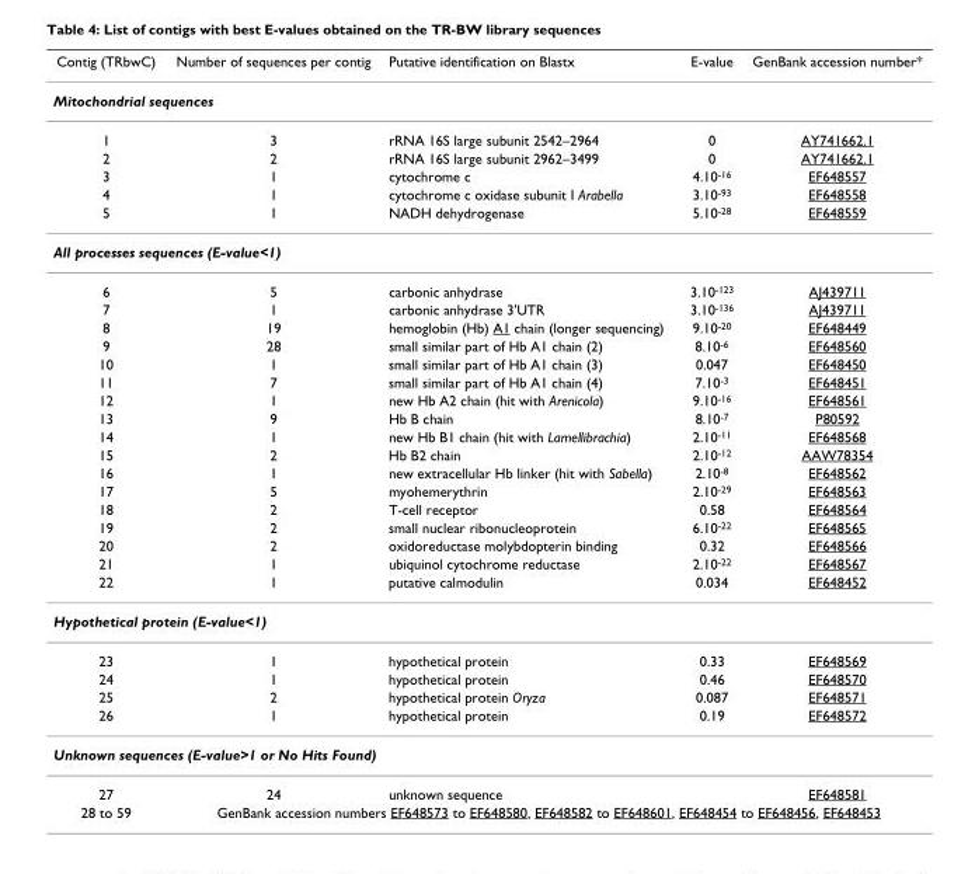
<table><thead><tr><td>Contig (TRbwC)</td><td>Number of sequences per contig</td><td>Putative identification on Blastx</td><td>E-value</td><td>GenBank accession number*</td></tr></thead><tbody><tr><td colspan="5">Mitochondrial sequences</td></tr><tr><td>1</td><td>3</td><td>rRNA 16S large subunit 2542–2964</td><td>0</td><td>AY741662.1</td></tr><tr><td>2</td><td>2</td><td>rRNA 16S large subunit 2962–3499</td><td>0</td><td>AY741662.1</td></tr><tr><td>3</td><td>1</td><td>cytochrome c</td><td>4.10<sup>-16</sup></td><td>EF648557</td></tr><tr><td>4</td><td>1</td><td>cytochrome c oxidase subunit I Arabella</td><td>3.10<sup>-93</sup></td><td>EF648558</td></tr><tr><td>5</td><td>1</td><td>NADH dehydrogenase</td><td>5.10<sup>-28</sup></td><td>EF648559</td></tr><tr><td colspan="5">All processes sequences (E-value&lt;1)</td></tr><tr><td>6</td><td>5</td><td>carbonic anhydrase</td><td>3.10<sup>-123</sup></td><td>AJ439711</td></tr><tr><td>7</td><td>1</td><td>carbonic anhydrase 3&#x27;UTR</td><td>3.10<sup>-136</sup></td><td>AJ439711</td></tr><tr><td>8</td><td>19</td><td>hemoglobin (Hb) A1 chain (longer sequencing)</td><td>9.10<sup>-20</sup></td><td>EF648449</td></tr><tr><td>9</td><td>28</td><td>small similar part of Hb A1 chain (2)</td><td>8.10<sup>-6</sup></td><td>EF648560</td></tr><tr><td>10</td><td>1</td><td>small similar part of Hb A1 chain (3)</td><td>0.047</td><td>EF648450</td></tr><tr><td>11</td><td>7</td><td>small similar part of Hb A1 chain (4)</td><td>7.10<sup>-3</sup></td><td>EF648451</td></tr><tr><td>12</td><td>1</td><td>new Hb A2 chain (hit with Arenicola)</td><td>9.10<sup>-16</sup></td><td>EF648561</td></tr><tr><td>13</td><td>9</td><td>Hb B chain</td><td>8.10<sup>-7</sup></td><td>P80592</td></tr><tr><td>14</td><td>1</td><td>new Hb B1 chain (hit with Lamellibrachia)</td><td>2.10<sup>-11</sup></td><td>EF648568</td></tr><tr><td>15</td><td>2</td><td>Hb B2 chain</td><td>2.10<sup>-12</sup></td><td>AAW78354</td></tr><tr><td>16</td><td>1</td><td>new extracellular Hb linker (hit with Sabella)</td><td>2.10<sup>-8</sup></td><td>EF648562</td></tr><tr><td>17</td><td>5</td><td>myohemerythrin</td><td>2.10<sup>-29</sup></td><td>EF648563</td></tr><tr><td>18</td><td>2</td><td>T-cell receptor</td><td>0.58</td><td>EF648564</td></tr><tr><td>19</td><td>2</td><td>small nuclear ribonucleoprotein</td><td>6.10<sup>-22</sup></td><td>EF648565</td></tr><tr><td>20</td><td>2</td><td>oxidoreductase molybdopterin binding</td><td>0.32</td><td>EF648566</td></tr><tr><td>21</td><td>1</td><td>ubiquinol cytochrome reductase</td><td>2.10<sup>-22</sup></td><td>EF648567</td></tr><tr><td>22</td><td>1</td><td>putative calmodulin</td><td>0.034</td><td>EF648452</td></tr><tr><td colspan="5">Hypothetical protein (E-value&lt;1)</td></tr><tr><td>23</td><td>1</td><td>hypothetical protein</td><td>0.33</td><td>EF648569</td></tr><tr><td>24</td><td>1</td><td>hypothetical protein</td><td>0.46</td><td>EF648570</td></tr><tr><td>25</td><td>2</td><td>hypothetical protein Oryza</td><td>0.087</td><td>EF648571</td></tr><tr><td>26</td><td>1</td><td>hypothetical protein</td><td>0.19</td><td>EF648572</td></tr><tr><td colspan="5">Unknown sequences (E-value&gt;1 or No Hits Found)</td></tr><tr><td>27</td><td>24</td><td>unknown sequence</td><td></td><td>EF648581</td></tr><tr><td>28 to 59</td><td colspan="4">GenBank accession numbers EF648573 to EF648580, EF648582 to EF648601, EF648454 to EF648456, EF648453</td></tr></tbody></table>